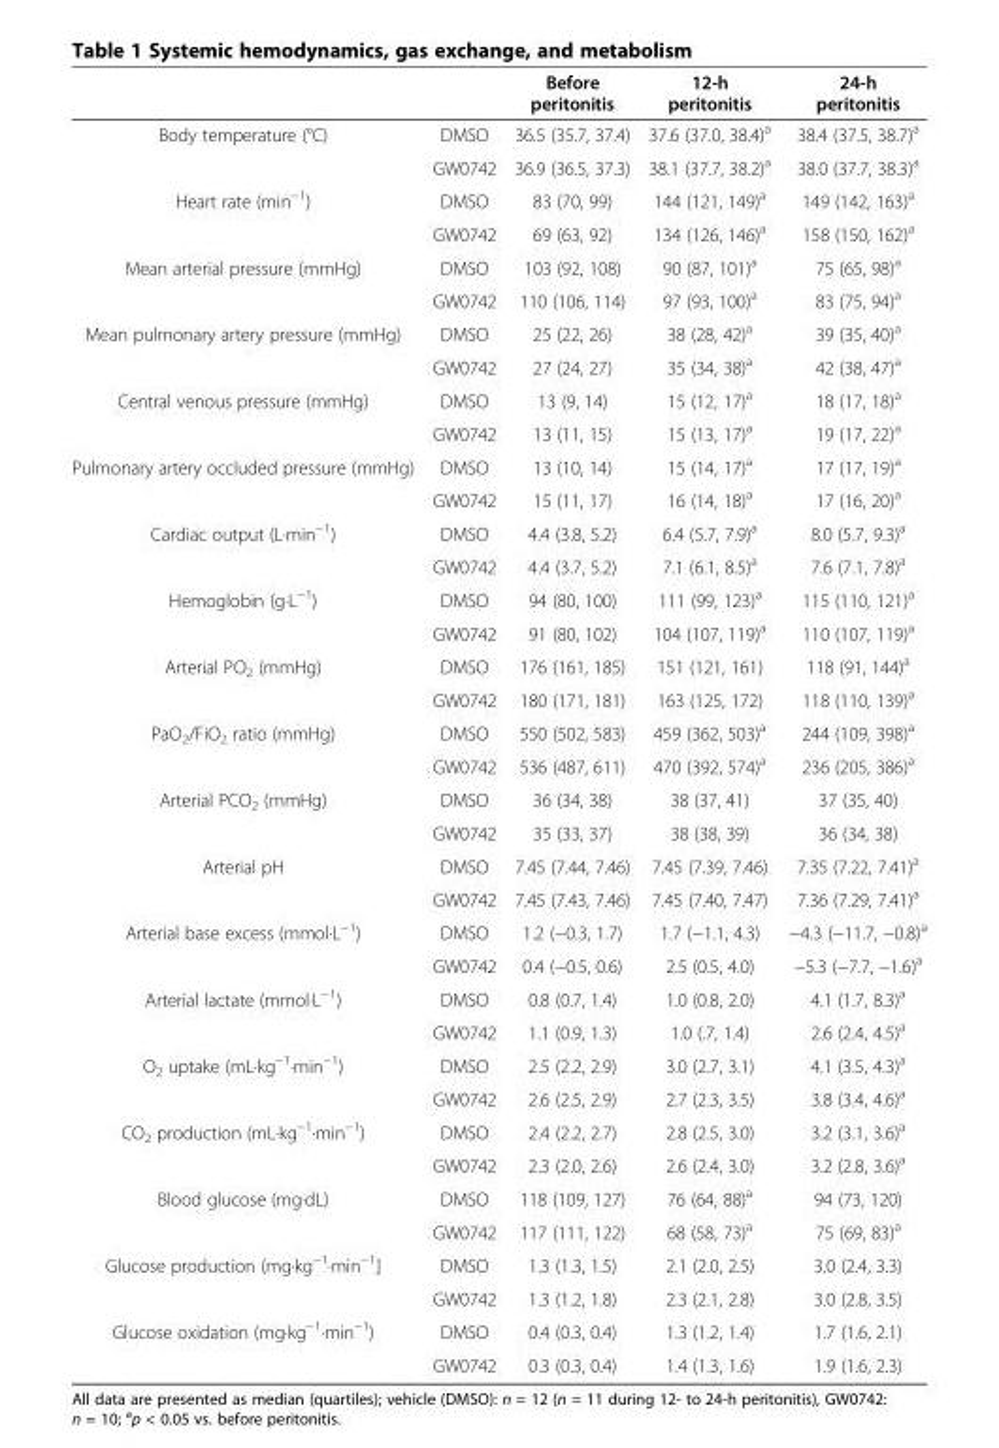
<table><thead><tr><td></td><td></td><td>Before peritonitis</td><td>12-h peritonitis</td><td>24-h peritonitis</td></tr></thead><tbody><tr><td rowspan="2">Body temperature (°C)</td><td>DMSO</td><td>36.5 (35.7, 37.4)</td><td>37.6 (37.0, 38.4)<sup>a</sup></td><td>38.4 (37.5, 38.7)<sup>a</sup></td></tr><tr><td>GW0742</td><td>36.9 (36.5, 37.3)</td><td>38.1 (37.7, 38.2)<sup>a</sup></td><td>38.0 (37.7, 38.3)<sup>a</sup></td></tr><tr><td rowspan="2">Heart rate (min<sup>−1</sup>)</td><td>DMSO</td><td>83 (70, 99)</td><td>144 (121, 149)<sup>a</sup></td><td>149 (142, 163)<sup>a</sup></td></tr><tr><td>GW0742</td><td>69 (63, 92)</td><td>134 (126, 146)<sup>a</sup></td><td>158 (150, 162)<sup>a</sup></td></tr><tr><td rowspan="2">Mean arterial pressure (mmHg)</td><td>DMSO</td><td>103 (92, 108)</td><td>90 (87, 101)<sup>a</sup></td><td>75 (65, 98)<sup>a</sup></td></tr><tr><td>GW0742</td><td>110 (106, 114)</td><td>97 (93, 100)<sup>a</sup></td><td>83 (75, 94)<sup>a</sup></td></tr><tr><td rowspan="2">Mean pulmonary artery pressure (mmHg)</td><td>DMSO</td><td>25 (22, 26)</td><td>38 (28, 42)<sup>a</sup></td><td>39 (35, 40)<sup>a</sup></td></tr><tr><td>GW0742</td><td>27 (24, 27)</td><td>35 (34, 38)<sup>a</sup></td><td>42 (38, 47)<sup>a</sup></td></tr><tr><td rowspan="2">Central venous pressure (mmHg)</td><td>DMSO</td><td>13 (9, 14)</td><td>15 (12, 17)<sup>a</sup></td><td>18 (17, 18)<sup>a</sup></td></tr><tr><td>GW0742</td><td>13 (11, 15)</td><td>15 (13, 17)<sup>a</sup></td><td>19 (17, 22)<sup>a</sup></td></tr><tr><td rowspan="2">Pulmonary artery occluded pressure (mmHg)</td><td>DMSO</td><td>13 (10, 14)</td><td>15 (14, 17)<sup>a</sup></td><td>17 (17, 19)<sup>a</sup></td></tr><tr><td>GW0742</td><td>15 (11, 17)</td><td>16 (14, 18)<sup>a</sup></td><td>17 (16, 20)<sup>a</sup></td></tr><tr><td rowspan="2">Cardiac output (L·min<sup>−1</sup>)</td><td>DMSO</td><td>4.4 (3.8, 5.2)</td><td>6.4 (5.7, 7.9)<sup>a</sup></td><td>8.0 (5.7, 9.3)<sup>a</sup></td></tr><tr><td>GW0742</td><td>4.4 (3.7, 5.2)</td><td>7.1 (6.1, 8.5)<sup>a</sup></td><td>7.6 (7.1, 7.8)<sup>a</sup></td></tr><tr><td rowspan="2">Hemoglobin (g·L<sup>−1</sup>)</td><td>DMSO</td><td>94 (80, 100)</td><td>111 (99, 123)<sup>a</sup></td><td>115 (110, 121)<sup>a</sup></td></tr><tr><td>GW0742</td><td>91 (80, 102)</td><td>104 (107, 119)<sup>a</sup></td><td>110 (107, 119)<sup>a</sup></td></tr><tr><td rowspan="2">Arterial PO<sub>2</sub> (mmHg)</td><td>DMSO</td><td>176 (161, 185)</td><td>151 (121, 161)</td><td>118 (91, 144)<sup>a</sup></td></tr><tr><td>GW0742</td><td>180 (171, 181)</td><td>163 (125, 172)</td><td>118 (110, 139)<sup>a</sup></td></tr><tr><td rowspan="2">PaO<sub>2</sub>/FiO<sub>2</sub> ratio (mmHg)</td><td>DMSO</td><td>550 (502, 583)</td><td>459 (362, 503)<sup>a</sup></td><td>244 (109, 398)<sup>a</sup></td></tr><tr><td>GW0742</td><td>536 (487, 611)</td><td>470 (392, 574)<sup>a</sup></td><td>236 (205, 386)<sup>a</sup></td></tr><tr><td rowspan="2">Arterial PCO<sub>2</sub> (mmHg)</td><td>DMSO</td><td>36 (34, 38)</td><td>38 (37, 41)</td><td>37 (35, 40)</td></tr><tr><td>GW0742</td><td>35 (33, 37)</td><td>38 (38, 39)</td><td>36 (34, 38)</td></tr><tr><td rowspan="2">Arterial pH</td><td>DMSO</td><td>7.45 (7.44, 7.46)</td><td>7.45 (7.39, 7.46)</td><td>7.35 (7.22, 7.41)<sup>a</sup></td></tr><tr><td>GW0742</td><td>7.45 (7.43, 7.46)</td><td>7.45 (7.40, 7.47)</td><td>7.36 (7.29, 7.41)<sup>a</sup></td></tr><tr><td rowspan="2">Arterial base excess (mmol·L<sup>−1</sup>)</td><td>DMSO</td><td>1.2 (−0.3, 1.7)</td><td>1.7 (−1.1, 4.3)</td><td>−4.3 (−11.7, −0.8)<sup>a</sup></td></tr><tr><td>GW0742</td><td>0.4 (−0.5, 0.6)</td><td>2.5 (0.5, 4.0)</td><td>−5.3 (−7.7, −1.6)<sup>a</sup></td></tr><tr><td rowspan="2">Arterial lactate (mmol·L<sup>−1</sup>)</td><td>DMSO</td><td>0.8 (0.7, 1.4)</td><td>1.0 (0.8, 2.0)</td><td>4.1 (1.7, 8.3)<sup>a</sup></td></tr><tr><td>GW0742</td><td>1.1 (0.9, 1.3)</td><td>1.0 (.7, 1.4)</td><td>2.6 (2.4, 4.5)<sup>a</sup></td></tr><tr><td rowspan="2">O<sub>2</sub> uptake (mL·kg<sup>−1</sup>·min<sup>−1</sup>)</td><td>DMSO</td><td>2.5 (2.2, 2.9)</td><td>3.0 (2.7, 3.1)</td><td>4.1 (3.5, 4.3)<sup>a</sup></td></tr><tr><td>GW0742</td><td>2.6 (2.5, 2.9)</td><td>2.7 (2.3, 3.5)</td><td>3.8 (3.4, 4.6)<sup>a</sup></td></tr><tr><td rowspan="2">CO<sub>2</sub> production (mL·kg<sup>−1</sup>·min<sup>−1</sup>)</td><td>DMSO</td><td>2.4 (2.2, 2.7)</td><td>2.8 (2.5, 3.0)</td><td>3.2 (3.1, 3.6)<sup>a</sup></td></tr><tr><td>GW0742</td><td>2.3 (2.0, 2.6)</td><td>2.6 (2.4, 3.0)</td><td>3.2 (2.8, 3.6)<sup>a</sup></td></tr><tr><td rowspan="2">Blood glucose (mg·dL)</td><td>DMSO</td><td>118 (109, 127)</td><td>76 (64, 88)<sup>a</sup></td><td>94 (73, 120)</td></tr><tr><td>GW0742</td><td>117 (111, 122)</td><td>68 (58, 73)<sup>a</sup></td><td>75 (69, 83)<sup>a</sup></td></tr><tr><td rowspan="2">Glucose production (mg·kg<sup>−1</sup>·min<sup>−1</sup>]</td><td>DMSO</td><td>1.3 (1.3, 1.5)</td><td>2.1 (2.0, 2.5)</td><td>3.0 (2.4, 3.3)</td></tr><tr><td>GW0742</td><td>1.3 (1.2, 1.8)</td><td>2.3 (2.1, 2.8)</td><td>3.0 (2.8, 3.5)</td></tr><tr><td rowspan="2">Glucose oxidation (mg·kg<sup>−1</sup>·min<sup>−1</sup>)</td><td>DMSO</td><td>0.4 (0.3, 0.4)</td><td>1.3 (1.2, 1.4)</td><td>1.7 (1.6, 2.1)</td></tr><tr><td>GW0742</td><td>0.3 (0.3, 0.4)</td><td>1.4 (1.3, 1.6)</td><td>1.9 (1.6, 2.3)</td></tr></tbody></table>